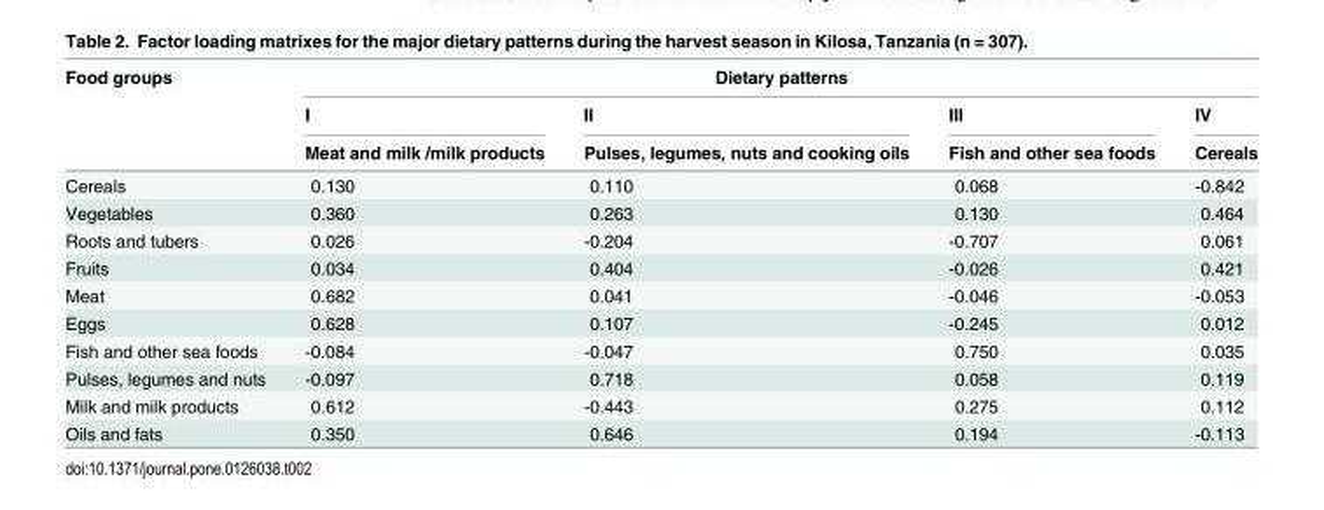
<table><thead><tr><td rowspan="3">Food groups</td><td colspan="4">Dietary patterns</td></tr><tr><td rowspan="2">I Meat and milk /milk products</td><td rowspan="2">II Pulses, legumes, nuts and cooking oils</td><td rowspan="2">III Fish and other sea foods</td><td rowspan="2">IV Cereals</td></tr><tr></tr></thead><tbody><tr><td>Cereals</td><td>0.130</td><td>0.110</td><td>0.068</td><td>-0.842</td></tr><tr><td>Vegetables</td><td>0.360</td><td>0.263</td><td>0.130</td><td>0.464</td></tr><tr><td>Roots and tubers</td><td>0.026</td><td>-0.204</td><td>-0.707</td><td>0.061</td></tr><tr><td>Fruits</td><td>0.034</td><td>0.404</td><td>-0.026</td><td>0.421</td></tr><tr><td>Meat</td><td>0.682</td><td>0.041</td><td>-0.046</td><td>-0.053</td></tr><tr><td>Eggs</td><td>0.628</td><td>0.107</td><td>-0.245</td><td>0.012</td></tr><tr><td>Fish and other sea foods</td><td>-0.084</td><td>-0.047</td><td>0.750</td><td>0.035</td></tr><tr><td>Pulses, legumes and nuts</td><td>-0.097</td><td>0.718</td><td>0.058</td><td>0.119</td></tr><tr><td>Milk and milk products</td><td>0.612</td><td>-0.443</td><td>0.275</td><td>0.112</td></tr><tr><td>Oils and fats</td><td>0.350</td><td>0.646</td><td>0.194</td><td>-0.113</td></tr></tbody></table>